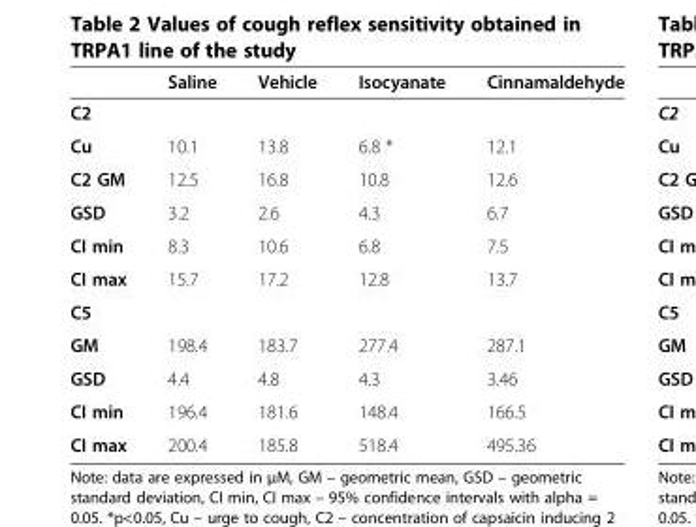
<table><thead><tr><td></td><td>Saline</td><td>Vehicle</td><td>Isocyanate</td><td>Cinnamaldehyde</td></tr></thead><tbody><tr><td colspan="5">C2</td></tr><tr><td>Cu</td><td>10.1</td><td>13.8</td><td>6.8 *</td><td>12.1</td></tr><tr><td>C2 GM</td><td>12.5</td><td>16.8</td><td>10.8</td><td>12.6</td></tr><tr><td>GSD</td><td>3.2</td><td>2.6</td><td>4.3</td><td>6.7</td></tr><tr><td>CI min</td><td>8.3</td><td>10.6</td><td>6.8</td><td>7.5</td></tr><tr><td>CI max</td><td>15.7</td><td>17.2</td><td>12.8</td><td>13.7</td></tr><tr><td colspan="5">C5</td></tr><tr><td>GM</td><td>198.4</td><td>183.7</td><td>277.4</td><td>287.1</td></tr><tr><td>GSD</td><td>4.4</td><td>4.8</td><td>4.3</td><td>3.46</td></tr><tr><td>CI min</td><td>196.4</td><td>181.6</td><td>148.4</td><td>166.5</td></tr><tr><td>CI max</td><td>200.4</td><td>185.8</td><td>518.4</td><td>495.36</td></tr></tbody></table>